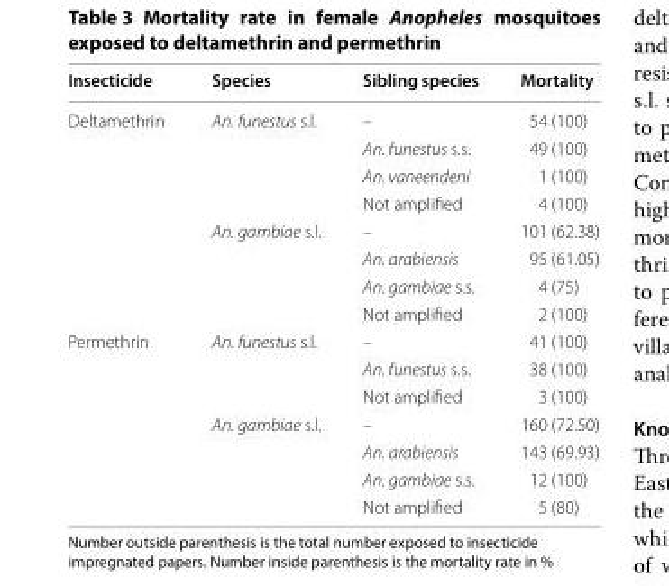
<table><thead><tr><td>Insecticide</td><td>Species</td><td>Sibling species</td><td>Mortality</td></tr></thead><tbody><tr><td rowspan="8">Deltamethrin</td><td>An. funestus s.l.</td><td>–</td><td>54 (100)</td></tr><tr><td></td><td>An. funestus s.s.</td><td>49 (100)</td></tr><tr><td></td><td>An. vaneendeni</td><td>1 (100)</td></tr><tr><td></td><td>Not amplified</td><td>4 (100)</td></tr><tr><td>An. gambiae s.l.</td><td>–</td><td>101 (62.38)</td></tr><tr><td></td><td>An. arabiensis</td><td>95 (61.05)</td></tr><tr><td></td><td>An. gambiae s.s.</td><td>4 (75)</td></tr><tr><td></td><td>Not amplified</td><td>2 (100)</td></tr><tr><td rowspan="7">Permethrin</td><td>An. funestus s.l.</td><td>–</td><td>41 (100)</td></tr><tr><td></td><td>An. funestus s.s.</td><td>38 (100)</td></tr><tr><td></td><td>Not amplified</td><td>3 (100)</td></tr><tr><td>An. gambiae s.l.</td><td>–</td><td>160 (72.50)</td></tr><tr><td></td><td>An. arabiensis</td><td>143 (69.93)</td></tr><tr><td></td><td>An. gambiae s.s.</td><td>12 (100)</td></tr><tr><td></td><td>Not amplified</td><td>5 (80)</td></tr></tbody></table>